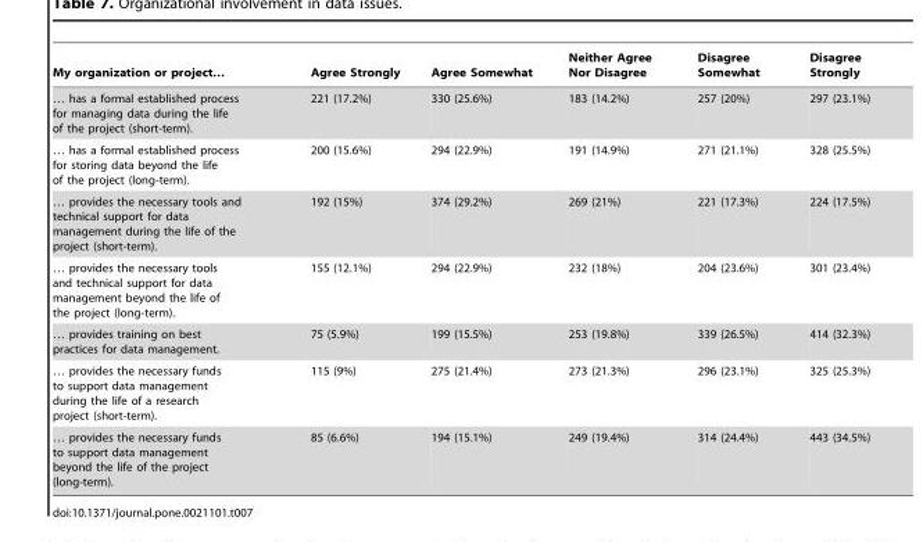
<table><thead><tr><td>My organization or project…</td><td>Agree Strongly</td><td>Agree Somewhat</td><td>Neither Agree Nor Disagree</td><td>Disagree Somewhat</td><td>Disagree Strongly</td></tr></thead><tbody><tr><td>… has a formal established process for managing data during the life of the project (short-term).</td><td>221 (17.2%)</td><td>330 (25.6%)</td><td>183 (14.2%)</td><td>257 (20%)</td><td>297 (23.1%)</td></tr><tr><td>… has a formal established process for storing data beyond the life of the project (long-term).</td><td>200 (15.6%)</td><td>294 (22.9%)</td><td>191 (14.9%)</td><td>271 (21.1%)</td><td>328 (25.5%)</td></tr><tr><td>… provides the necessary tools and technical support for data management during the life of the project (short-term).</td><td>192 (15%)</td><td>374 (29.2%)</td><td>269 (21%)</td><td>221 (17.3%)</td><td>224 (17.5%)</td></tr><tr><td>… provides the necessary tools and technical support for data management beyond the life of the project (long-term).</td><td>155 (12.1%)</td><td>294 (22.9%)</td><td>232 (18%)</td><td>204 (23.6%)</td><td>301 (23.4%)</td></tr><tr><td>… provides training on best practices for data management.</td><td>75 (5.9%)</td><td>199 (15.5%)</td><td>253 (19.8%)</td><td>339 (26.5%)</td><td>414 (32.3%)</td></tr><tr><td>… provides the necessary funds to support data management during the life of a research project (short-term).</td><td>115 (9%)</td><td>275 (21.4%)</td><td>273 (21.3%)</td><td>296 (23.1%)</td><td>325 (25.3%)</td></tr><tr><td>… provides the necessary funds to support data management beyond the life of the project (long-term).</td><td>85 (6.6%)</td><td>194 (15.1%)</td><td>249 (19.4%)</td><td>314 (24.4%)</td><td>443 (34.5%)</td></tr></tbody></table>